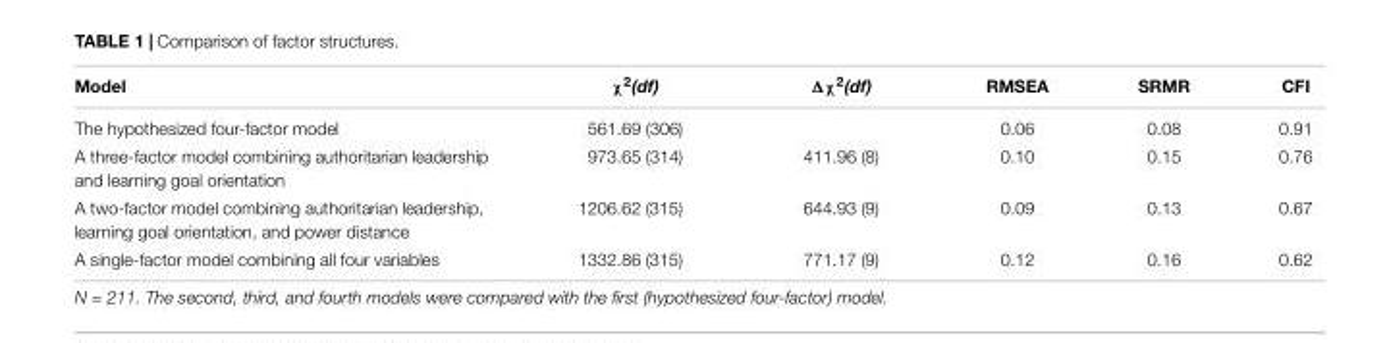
<table><thead><tr><td>Model</td><td>χ<sup>2</sup>(df)</td><td>Δχ<sup>2</sup>(df)</td><td>RMSEA</td><td>SRMR</td><td>CFI</td></tr></thead><tbody><tr><td>The hypothesized four-factor model</td><td>561.69 (306)</td><td></td><td>0.06</td><td>0.08</td><td>0.91</td></tr><tr><td>A three-factor model combining authoritarian leadership and learning goal orientation</td><td>973.65 (314)</td><td>411.96 (8)</td><td>0.10</td><td>0.15</td><td>0.76</td></tr><tr><td>A two-factor model combining authoritarian leadership, learning goal orientation, and power distance</td><td>1206.62 (315)</td><td>644.93 (9)</td><td>0.09</td><td>0.13</td><td>0.67</td></tr><tr><td>A single-factor model combining all four variables</td><td>1332.86 (315)</td><td>771.17 (9)</td><td>0.12</td><td>0.16</td><td>0.62</td></tr></tbody></table>